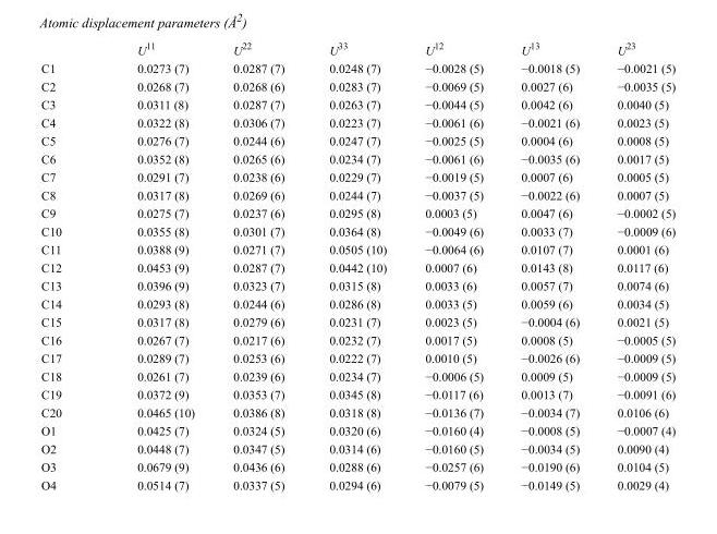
<table><thead><tr><td></td><td>U<sup>11</sup></td><td>U<sup>22</sup></td><td>U<sup>33</sup></td><td>U<sup>12</sup></td><td>U<sup>13</sup></td><td>U<sup>23</sup></td></tr></thead><tbody><tr><td>C1</td><td>0.0273 (7)</td><td>0.0287 (7)</td><td>0.0248 (7)</td><td>−0.0028 (5)</td><td>−0.0018 (5)</td><td>−0.0021 (5)</td></tr><tr><td>C2</td><td>0.0268 (7)</td><td>0.0268 (6)</td><td>0.0283 (7)</td><td>−0.0069 (5)</td><td>0.0027 (6)</td><td>−0.0035 (5)</td></tr><tr><td>C3</td><td>0.0311 (8)</td><td>0.0287 (7)</td><td>0.0263 (7)</td><td>−0.0044 (5)</td><td>0.0042 (6)</td><td>0.0040 (5)</td></tr><tr><td>C4</td><td>0.0322 (8)</td><td>0.0306 (7)</td><td>0.0223 (7)</td><td>−0.0061 (6)</td><td>−0.0021 (6)</td><td>0.0023 (5)</td></tr><tr><td>C5</td><td>0.0276 (7)</td><td>0.0244 (6)</td><td>0.0247 (7)</td><td>−0.0025 (5)</td><td>0.0004 (6)</td><td>0.0008 (5)</td></tr><tr><td>C6</td><td>0.0352 (8)</td><td>0.0265 (6)</td><td>0.0234 (7)</td><td>−0.0061 (6)</td><td>−0.0035 (6)</td><td>0.0017 (5)</td></tr><tr><td>C7</td><td>0.0291 (7)</td><td>0.0238 (6)</td><td>0.0229 (7)</td><td>−0.0019 (5)</td><td>0.0007 (6)</td><td>0.0005 (5)</td></tr><tr><td>C8</td><td>0.0317 (8)</td><td>0.0269 (6)</td><td>0.0244 (7)</td><td>−0.0037 (5)</td><td>−0.0022 (6)</td><td>0.0007 (5)</td></tr><tr><td>C9</td><td>0.0275 (7)</td><td>0.0237 (6)</td><td>0.0295 (8)</td><td>0.0003 (5)</td><td>0.0047 (6)</td><td>−0.0002 (5)</td></tr><tr><td>C10</td><td>0.0355 (8)</td><td>0.0301 (7)</td><td>0.0364 (8)</td><td>−0.0049 (6)</td><td>0.0033 (7)</td><td>−0.0009 (6)</td></tr><tr><td>C11</td><td>0.0388 (9)</td><td>0.0271 (7)</td><td>0.0505 (10)</td><td>−0.0064 (6)</td><td>0.0107 (7)</td><td>0.0001 (6)</td></tr><tr><td>C12</td><td>0.0453 (9)</td><td>0.0287 (7)</td><td>0.0442 (10)</td><td>0.0007 (6)</td><td>0.0143 (8)</td><td>0.0117 (6)</td></tr><tr><td>C13</td><td>0.0396 (9)</td><td>0.0323 (7)</td><td>0.0315 (8)</td><td>0.0033 (6)</td><td>0.0057 (7)</td><td>0.0074 (6)</td></tr><tr><td>C14</td><td>0.0293 (8)</td><td>0.0244 (6)</td><td>0.0286 (8)</td><td>0.0033 (5)</td><td>0.0059 (6)</td><td>0.0034 (5)</td></tr><tr><td>C15</td><td>0.0317 (8)</td><td>0.0279 (6)</td><td>0.0231 (7)</td><td>0.0023 (5)</td><td>−0.0004 (6)</td><td>0.0021 (5)</td></tr><tr><td>C16</td><td>0.0267 (7)</td><td>0.0217 (6)</td><td>0.0232 (7)</td><td>0.0017 (5)</td><td>0.0008 (5)</td><td>−0.0005 (5)</td></tr><tr><td>C17</td><td>0.0289 (7)</td><td>0.0253 (6)</td><td>0.0222 (7)</td><td>0.0010 (5)</td><td>−0.0026 (6)</td><td>−0.0009 (5)</td></tr><tr><td>C18</td><td>0.0261 (7)</td><td>0.0239 (6)</td><td>0.0234 (7)</td><td>−0.0006 (5)</td><td>0.0009 (5)</td><td>−0.0009 (5)</td></tr><tr><td>C19</td><td>0.0372 (9)</td><td>0.0353 (7)</td><td>0.0345 (8)</td><td>−0.0117 (6)</td><td>0.0013 (7)</td><td>−0.0091 (6)</td></tr><tr><td>C20</td><td>0.0465 (10)</td><td>0.0386 (8)</td><td>0.0318 (8)</td><td>−0.0136 (7)</td><td>−0.0034 (7)</td><td>0.0106 (6)</td></tr><tr><td>O1</td><td>0.0425 (7)</td><td>0.0324 (5)</td><td>0.0320 (6)</td><td>−0.0160 (4)</td><td>−0.0008 (5)</td><td>−0.0007 (4)</td></tr><tr><td>O2</td><td>0.0448 (7)</td><td>0.0347 (5)</td><td>0.0314 (6)</td><td>−0.0160 (5)</td><td>−0.0034 (5)</td><td>0.0090 (4)</td></tr><tr><td>O3</td><td>0.0679 (9)</td><td>0.0436 (6)</td><td>0.0288 (6)</td><td>−0.0257 (6)</td><td>−0.0190 (6)</td><td>0.0104 (5)</td></tr><tr><td>O4</td><td>0.0514 (7)</td><td>0.0337 (5)</td><td>0.0294 (6)</td><td>−0.0079 (5)</td><td>−0.0149 (5)</td><td>0.0029 (4)</td></tr></tbody></table>